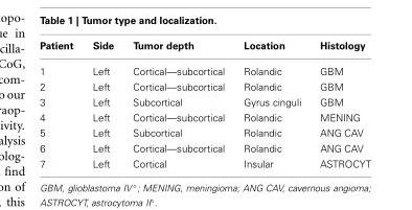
<table><thead><tr><td>Patient</td><td>Side</td><td>Tumor depth</td><td>Location</td><td>Histology</td></tr></thead><tbody><tr><td>1</td><td>Left</td><td>Cortical—subcortical</td><td>Rolandic</td><td>GBM</td></tr><tr><td>2</td><td>Left</td><td>Cortical—subcortical</td><td>Rolandic</td><td>GBM</td></tr><tr><td>3</td><td>Left</td><td>Subcortical</td><td>Gyrus cinguli</td><td>GBM</td></tr><tr><td>4</td><td>Left</td><td>Cortical—subcortical</td><td>Rolandic</td><td>MENING</td></tr><tr><td>5</td><td>Left</td><td>Subcortical</td><td>Rolandic</td><td>ANG CAV</td></tr><tr><td>6</td><td>Left</td><td>Cortical—subcortical</td><td>Rolandic</td><td>ANG CAV</td></tr><tr><td>7</td><td>Left</td><td>Cortical</td><td>Insular</td><td>ASTROCYT</td></tr></tbody></table>